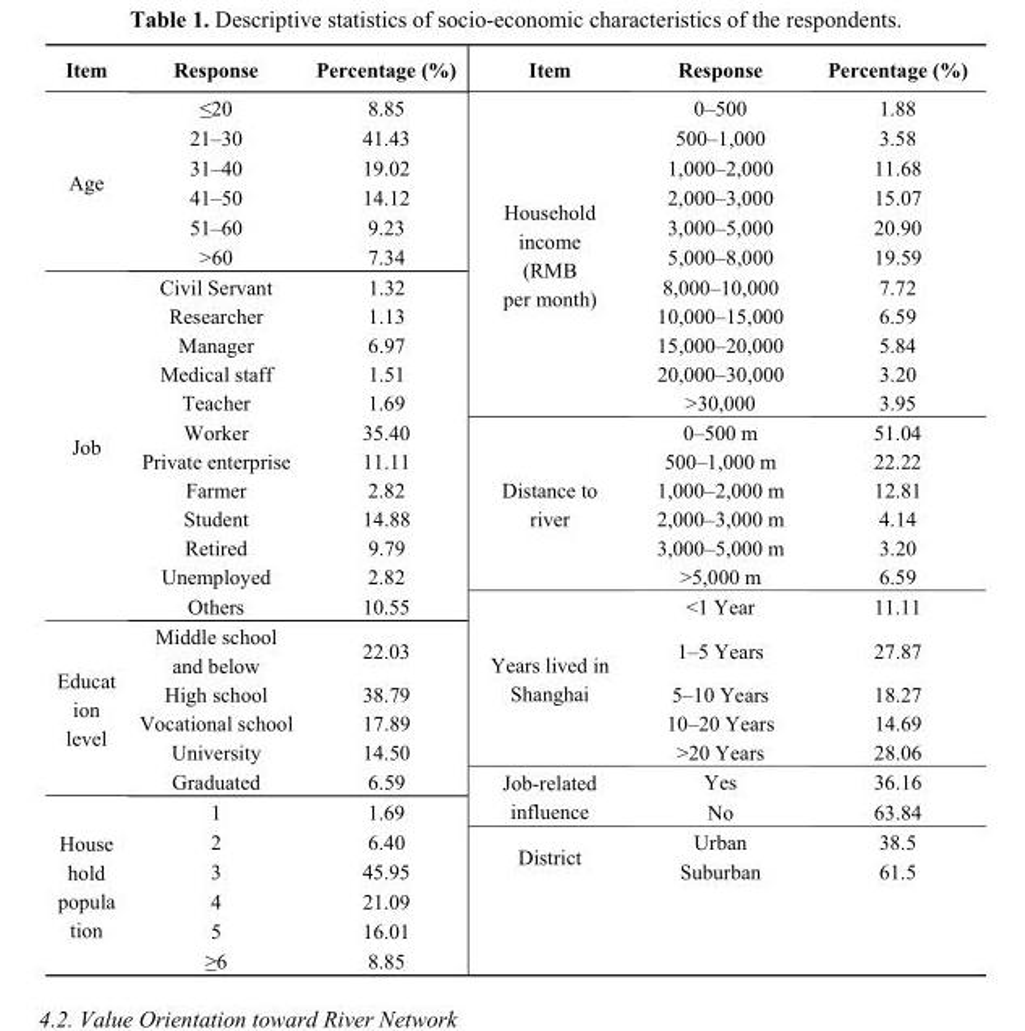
<table><thead><tr><td>Item</td><td>Response</td><td>Percentage (%)</td><td>Item</td><td>Response</td><td>Percentage (%)</td></tr></thead><tbody><tr><td rowspan="6">Age</td><td>≤20</td><td>8.85</td><td rowspan="11">Household income (RMB per month)</td><td>0–500</td><td>1.88</td></tr><tr><td>21–30</td><td>41.43</td><td>500–1,000</td><td>3.58</td></tr><tr><td>31–40</td><td>19.02</td><td>1,000–2,000</td><td>11.68</td></tr><tr><td>41–50</td><td>14.12</td><td>2,000–3,000</td><td>15.07</td></tr><tr><td>51–60</td><td>9.23</td><td>3,000–5,000</td><td>20.90</td></tr><tr><td>&gt;60</td><td>7.34</td><td>5,000–8,000</td><td>19.59</td></tr><tr><td rowspan="12">Job</td><td>Civil Servant</td><td>1.32</td><td>8,000–10,000</td><td>7.72</td></tr><tr><td>Researcher</td><td>1.13</td><td>10,000–15,000</td><td>6.59</td></tr><tr><td>Manager</td><td>6.97</td><td>15,000–20,000</td><td>5.84</td></tr><tr><td>Medical staff</td><td>1.51</td><td>20,000–30,000</td><td>3.20</td></tr><tr><td>Teacher</td><td>1.69</td><td>&gt;30,000</td><td>3.95</td></tr><tr><td>Worker</td><td>35.40</td><td rowspan="6">Distance to river</td><td>0–500 m</td><td>51.04</td></tr><tr><td>Private enterprise</td><td>11.11</td><td>500–1,000 m</td><td>22.22</td></tr><tr><td>Farmer</td><td>2.82</td><td>1,000–2,000 m</td><td>12.81</td></tr><tr><td>Student</td><td>14.88</td><td>2,000–3,000 m</td><td>4.14</td></tr><tr><td>Retired</td><td>9.79</td><td>3,000–5,000 m</td><td>3.20</td></tr><tr><td>Unemployed</td><td>2.82</td><td>&gt;5,000 m</td><td>6.59</td></tr><tr><td>Others</td><td>10.55</td><td rowspan="5">Years lived in Shanghai</td><td>&lt;1 Year</td><td>11.11</td></tr><tr><td rowspan="5">Educat ion level</td><td>Middle school and below</td><td>22.03</td><td>1–5 Years</td><td>27.87</td></tr><tr><td>High school</td><td>38.79</td><td>5–10 Years</td><td>18.27</td></tr><tr><td>Vocational school</td><td>17.89</td><td>10–20 Years</td><td>14.69</td></tr><tr><td>University</td><td>14.50</td><td>&gt;20 Years</td><td>28.06</td></tr><tr><td>Graduated</td><td>6.59</td><td rowspan="2">Job-related influence</td><td>Yes</td><td>36.16</td></tr><tr><td rowspan="6">House hold popula tion</td><td>1</td><td>1.69</td><td>No</td><td>63.84</td></tr><tr><td>2</td><td>6.40</td><td rowspan="2">District</td><td>Urban</td><td>38.5</td></tr><tr><td>3</td><td>45.95</td><td>Suburban</td><td>61.5</td></tr><tr><td>4</td><td>21.09</td><td></td><td></td><td></td></tr><tr><td>5</td><td>16.01</td><td></td><td></td><td></td></tr><tr><td>≥6</td><td>8.85</td><td></td><td></td><td></td></tr></tbody></table>